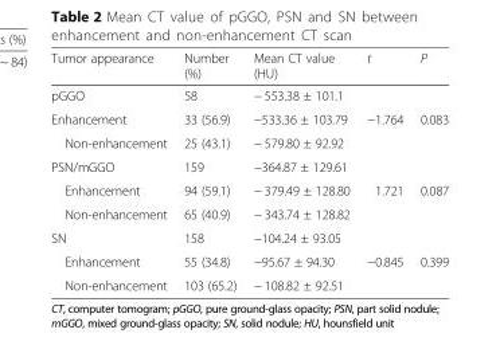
<table><thead><tr><td>Tumor appearance</td><td>Number (%)</td><td>Mean CT value (HU)</td><td>t</td><td>P</td></tr></thead><tbody><tr><td>pGGO</td><td>58</td><td>− 553.38 ± 101.1</td><td></td><td></td></tr><tr><td>Enhancement</td><td>33 (56.9)</td><td>−533.36 ± 103.79</td><td rowspan="3">−1.764</td><td rowspan="3">0.083</td></tr><tr><td>Non-enhancement</td><td>25 (43.1)</td><td>− 579.80 ± 92.92</td></tr><tr><td>PSN/mGGO</td><td>159</td><td>−364.87 ± 129.61</td></tr><tr><td>Enhancement</td><td>94 (59.1)</td><td>− 379.49 ± 128.80</td><td rowspan="3">1.721</td><td rowspan="3">0.087</td></tr><tr><td>Non-enhancement</td><td>65 (40.9)</td><td>− 343.74 ± 128.82</td></tr><tr><td>SN</td><td>158</td><td>−104.24 ± 93.05</td></tr><tr><td>Enhancement</td><td>55 (34.8)</td><td>−95.67 ± 94.30</td><td rowspan="2">−0.845</td><td rowspan="2">0.399</td></tr><tr><td>Non-enhancement</td><td>103 (65.2)</td><td>− 108.82 ± 92.51</td></tr></tbody></table>